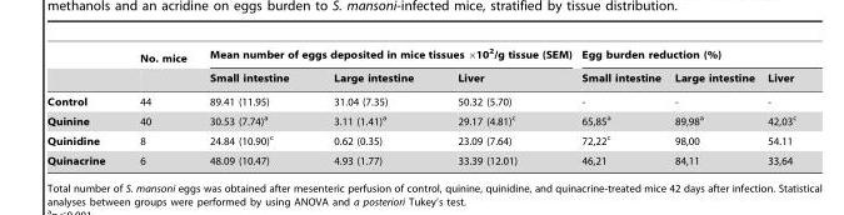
<table><thead><tr><td rowspan="2"></td><td rowspan="2">No. mice</td><td colspan="3">Mean number of eggs deposited in mice tissues ×10<sup>2</sup>/g tissue (SEM)</td><td colspan="3">Egg burden reduction (%)</td></tr><tr><td>Small intestine</td><td>Large intestine</td><td>Liver</td><td>Small intestine</td><td>Large intestine</td><td>Liver</td></tr></thead><tbody><tr><td>Control</td><td>44</td><td>89.41 (11.95)</td><td>31.04 (7.35)</td><td>50.32 (5.70)</td><td>-</td><td>-</td><td>-</td></tr><tr><td>Quinine</td><td>40</td><td>30.53 (7.74)<sup>a</sup></td><td>3.11 (1.41)<sup>a</sup></td><td>29.17 (4.81)<sup>c</sup></td><td>65,85<sup>a</sup></td><td>89,98<sup>a</sup></td><td>42,03<sup>c</sup></td></tr><tr><td>Quinidine</td><td>8</td><td>24.84 (10.90)<sup>c</sup></td><td>0.62 (0.35)</td><td>23.09 (7.64)</td><td>72,22<sup>c</sup></td><td>98,00</td><td>54.11</td></tr><tr><td>Quinacrine</td><td>6</td><td>48.09 (10.47)</td><td>4.93 (1.77)</td><td>33.39 (12.01)</td><td>46,21</td><td>84,11</td><td>33,64</td></tr></tbody></table>